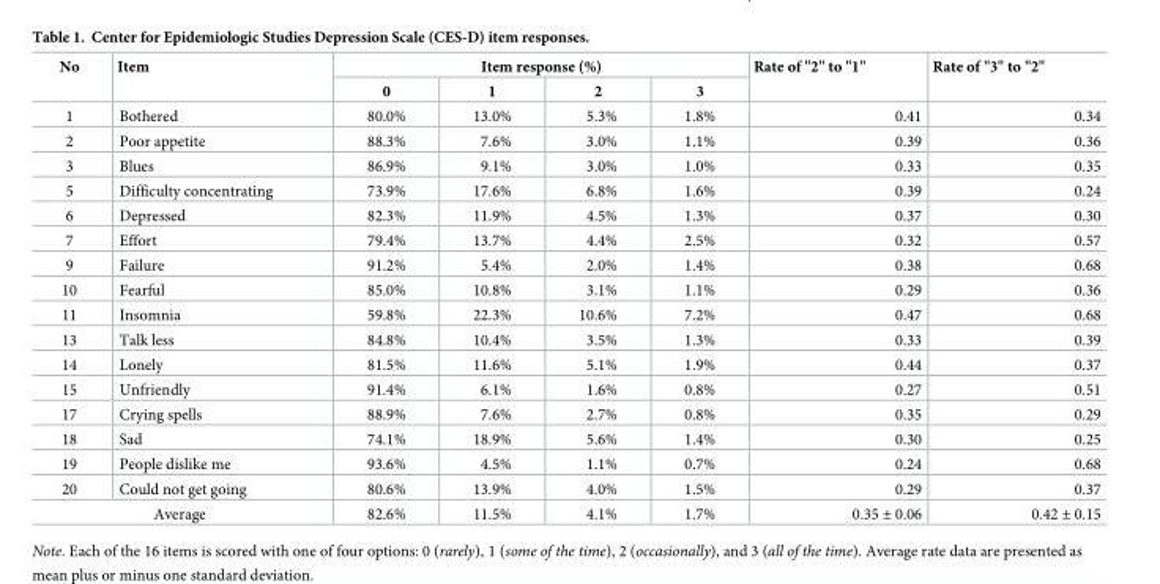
<table><thead><tr><td rowspan="2">No</td><td rowspan="2">Item</td><td colspan="4">Item response (%)</td><td rowspan="2">Rate of &quot;2&quot; to &quot;1&quot;</td><td rowspan="2">Rate of &quot;3&quot; to &quot;2&quot;</td></tr><tr><td>0</td><td>1</td><td>2</td><td>3</td></tr></thead><tbody><tr><td>1</td><td>Bothered</td><td>80.0%</td><td>13.0%</td><td>5.3%</td><td>1.8%</td><td>0.41</td><td>0.34</td></tr><tr><td>2</td><td>Poor appetite</td><td>88.3%</td><td>7.6%</td><td>3.0%</td><td>1.1%</td><td>0.39</td><td>0.36</td></tr><tr><td>3</td><td>Blues</td><td>86.9%</td><td>9.1%</td><td>3.0%</td><td>1.0%</td><td>0.33</td><td>0.35</td></tr><tr><td>5</td><td>Difficulty concentrating</td><td>73.9%</td><td>17.6%</td><td>6.8%</td><td>1.6%</td><td>0.39</td><td>0.24</td></tr><tr><td>6</td><td>Depressed</td><td>82.3%</td><td>11.9%</td><td>4.5%</td><td>1.3%</td><td>0.37</td><td>0.30</td></tr><tr><td>7</td><td>Effort</td><td>79.4%</td><td>13.7%</td><td>4.4%</td><td>2.5%</td><td>0.32</td><td>0.57</td></tr><tr><td>9</td><td>Failure</td><td>91.2%</td><td>5.4%</td><td>2.0%</td><td>1.4%</td><td>0.38</td><td>0.68</td></tr><tr><td>10</td><td>Fearful</td><td>85.0%</td><td>10.8%</td><td>3.1%</td><td>1.1%</td><td>0.29</td><td>0.36</td></tr><tr><td>11</td><td>Insomnia</td><td>59.8%</td><td>22.3%</td><td>10.6%</td><td>7.2%</td><td>0.47</td><td>0.68</td></tr><tr><td>13</td><td>Talk less</td><td>84.8%</td><td>10.4%</td><td>3.5%</td><td>1.3%</td><td>0.33</td><td>0.39</td></tr><tr><td>14</td><td>Lonely</td><td>81.5%</td><td>11.6%</td><td>5.1%</td><td>1.9%</td><td>0.44</td><td>0.37</td></tr><tr><td>15</td><td>Unfriendly</td><td>91.4%</td><td>6.1%</td><td>1.6%</td><td>0.8%</td><td>0.27</td><td>0.51</td></tr><tr><td>17</td><td>Crying spells</td><td>88.9%</td><td>7.6%</td><td>2.7%</td><td>0.8%</td><td>0.35</td><td>0.29</td></tr><tr><td>18</td><td>Sad</td><td>74.1%</td><td>18.9%</td><td>5.6%</td><td>1.4%</td><td>0.30</td><td>0.25</td></tr><tr><td>19</td><td>People dislike me</td><td>93.6%</td><td>4.5%</td><td>1.1%</td><td>0.7%</td><td>0.24</td><td>0.68</td></tr><tr><td>20</td><td>Could not get going</td><td>80.6%</td><td>13.9%</td><td>4.0%</td><td>1.5%</td><td>0.29</td><td>0.37</td></tr><tr><td colspan="2">Average</td><td>82.6%</td><td>11.5%</td><td>4.1%</td><td>1.7%</td><td>0.35 ± 0.06</td><td>0.42 ± 0.15</td></tr></tbody></table>